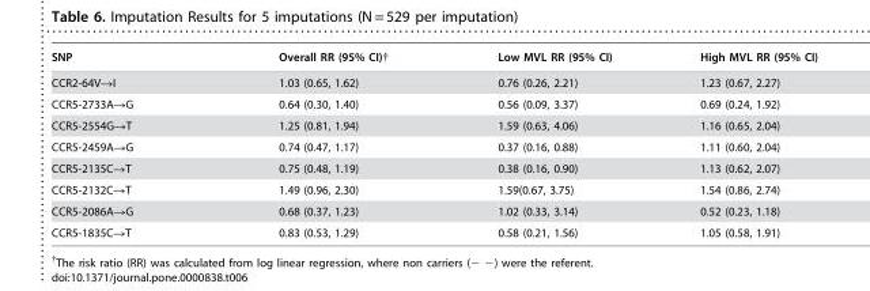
<table><thead><tr><td>SNP</td><td>Overall RR (95% CI)†</td><td>Low MVL RR (95% CI)</td><td>High MVL RR (95% CI)</td></tr></thead><tbody><tr><td>CCR2-64V→I</td><td>1.03 (0.65, 1.62)</td><td>0.76 (0.26, 2.21)</td><td>1.23 (0.67, 2.27)</td></tr><tr><td>CCR5-2733A→G</td><td>0.64 (0.30, 1.40)</td><td>0.56 (0.09, 3.37)</td><td>0.69 (0.24, 1.92)</td></tr><tr><td>CCR5-2554G→T</td><td>1.25 (0.81, 1.94)</td><td>1.59 (0.63, 4.06)</td><td>1.16 (0.65, 2.04)</td></tr><tr><td>CCR5-2459A→G</td><td>0.74 (0.47, 1.17)</td><td>0.37 (0.16, 0.88)</td><td>1.11 (0.60, 2.04)</td></tr><tr><td>CCR5-2135C→T</td><td>0.75 (0.48, 1.19)</td><td>0.38 (0.16, 0.90)</td><td>1.13 (0.62, 2.07)</td></tr><tr><td>CCR5-2132C→T</td><td>1.49 (0.96, 2.30)</td><td>1.59(0.67, 3.75)</td><td>1.54 (0.86, 2.74)</td></tr><tr><td>CCR5-2086A→G</td><td>0.68 (0.37, 1.23)</td><td>1.02 (0.33, 3.14)</td><td>0.52 (0.23, 1.18)</td></tr><tr><td>CCR5-1835C→T</td><td>0.83 (0.53, 1.29)</td><td>0.58 (0.21, 1.56)</td><td>1.05 (0.58, 1.91)</td></tr></tbody></table>